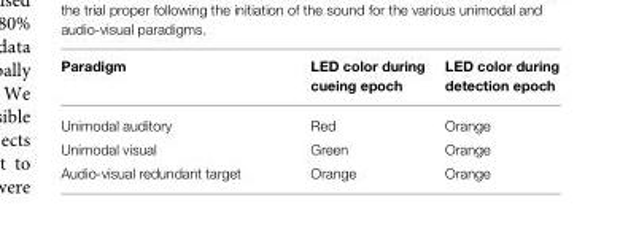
<table><thead><tr><td>Paradigm</td><td>LED color during cueing epoch</td><td>LED color during detection epoch</td></tr></thead><tbody><tr><td>Unimodal auditory</td><td>Red</td><td>Orange</td></tr><tr><td>Unimodal visual</td><td>Green</td><td>Orange</td></tr><tr><td>Audio-visual redundant target</td><td>Orange</td><td>Orange</td></tr></tbody></table>